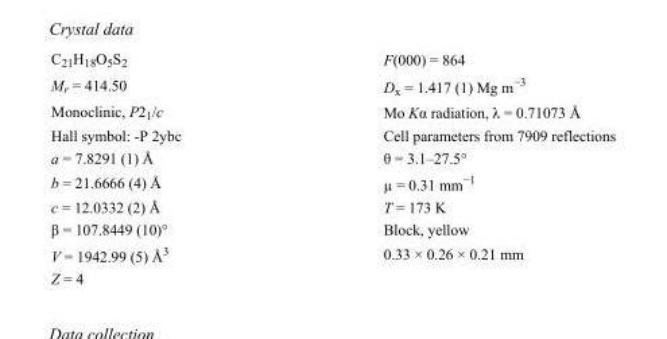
<table><tbody><tr><td>C<sub>21</sub>H<sub>18</sub>O<sub>5</sub>S<sub>2</sub></td><td>F(000) = 864</td></tr><tr><td>M<sub>r</sub> = 414.50</td><td>D<sub>x</sub> = 1.417 (1) Mg m<sup>−3</sup></td></tr><tr><td>Monoclinic, P2<sub>1</sub>/c</td><td>Mo Kα radiation, λ = 0.71073 Å</td></tr><tr><td>Hall symbol: -P 2ybc</td><td>Cell parameters from 7909 reflections</td></tr><tr><td>a = 7.8291 (1) Å</td><td>θ = 3.1–27.5°</td></tr><tr><td>b = 21.6666 (4) Å</td><td>µ = 0.31 mm<sup>−1</sup></td></tr><tr><td>c = 12.0332 (2) Å</td><td>T = 173 K</td></tr><tr><td>β = 107.8449 (10)°</td><td>Block, yellow</td></tr><tr><td>V = 1942.99 (5) Å<sup>3</sup></td><td>0.33 × 0.26 × 0.21 mm</td></tr><tr><td>Z = 4</td><td></td></tr></tbody></table>